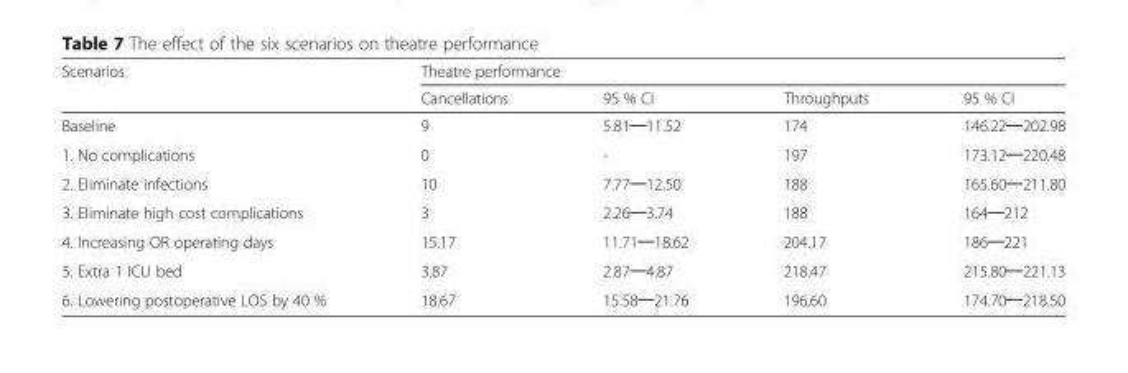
<table><thead><tr><td rowspan="2">Scenarios</td><td colspan="4">Theatre performance</td></tr><tr><td>Cancellations</td><td>95 % CI</td><td>Throughputs</td><td>95 % CI</td></tr></thead><tbody><tr><td>Baseline</td><td>9</td><td>5.81─11.52</td><td>174</td><td>146.22─202.98</td></tr><tr><td>1. No complications</td><td>0</td><td>-</td><td>197</td><td>173.12─220.48</td></tr><tr><td>2. Eliminate infections</td><td>10</td><td>7.77─12.50</td><td>188</td><td>165.60─211.80</td></tr><tr><td>3. Eliminate high cost complications</td><td>3</td><td>2.26─3.74</td><td>188</td><td>164─212</td></tr><tr><td>4. Increasing OR operating days</td><td>15.17</td><td>11.71─18.62</td><td>204.17</td><td>186─221</td></tr><tr><td>5. Extra 1 ICU bed</td><td>3.87</td><td>2.87─4.87</td><td>218.47</td><td>215.80─221.13</td></tr><tr><td>6. Lowering postoperative LOS by 40 %</td><td>18.67</td><td>15.58─21.76</td><td>196.60</td><td>174.70─218.50</td></tr></tbody></table>